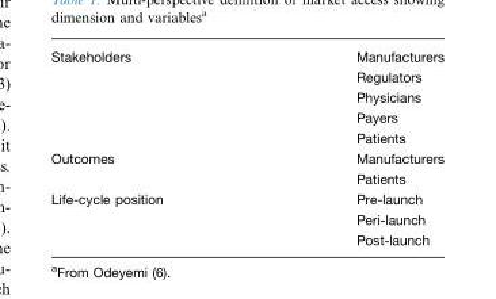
<table><tbody><tr><td>Stakeholders</td><td>Manufacturers Regulators Physicians Payers Patients</td></tr><tr><td>Outcomes</td><td>Manufacturers Patients</td></tr><tr><td>Life-cycle position</td><td>Pre-launch Peri-launch Post-launch</td></tr></tbody></table>